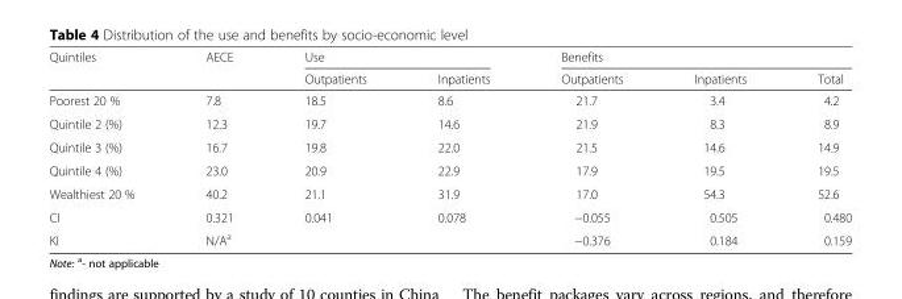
<table><thead><tr><td rowspan="2">Quintiles</td><td rowspan="2">AECE</td><td colspan="2">Use</td><td colspan="3">Benefits</td></tr><tr><td>Outpatients</td><td>Inpatients</td><td>Outpatients</td><td>Inpatients</td><td>Total</td></tr></thead><tbody><tr><td>Poorest 20 %</td><td>7.8</td><td>18.5</td><td>8.6</td><td>21.7</td><td>3.4</td><td>4.2</td></tr><tr><td>Quintile 2 (%)</td><td>12.3</td><td>19.7</td><td>14.6</td><td>21.9</td><td>8.3</td><td>8.9</td></tr><tr><td>Quintile 3 (%)</td><td>16.7</td><td>19.8</td><td>22.0</td><td>21.5</td><td>14.6</td><td>14.9</td></tr><tr><td>Quintile 4 (%)</td><td>23.0</td><td>20.9</td><td>22.9</td><td>17.9</td><td>19.5</td><td>19.5</td></tr><tr><td>Wealthiest 20 %</td><td>40.2</td><td>21.1</td><td>31.9</td><td>17.0</td><td>54.3</td><td>52.6</td></tr><tr><td>CI</td><td>0.321</td><td>0.041</td><td>0.078</td><td>−0.055</td><td>0.505</td><td>0.480</td></tr><tr><td>KI</td><td>N/A<sup>a</sup></td><td></td><td></td><td>−0.376</td><td>0.184</td><td>0.159</td></tr></tbody></table>